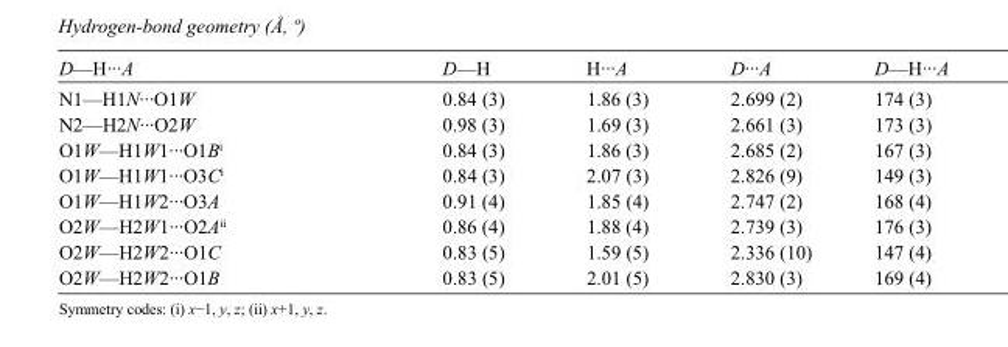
<table><tbody><tr><td>D—H···A</td><td>D—H</td><td>H···A</td><td>D···A</td><td>D—H···A</td></tr><tr><td>N1—H1N···O1W</td><td>0.84 (3)</td><td>1.86 (3)</td><td>2.699 (2)</td><td>174 (3)</td></tr><tr><td>N2—H2N···O2W</td><td>0.98 (3)</td><td>1.69 (3)</td><td>2.661 (3)</td><td>173 (3)</td></tr><tr><td>O1W—H1W1···O1B<sup>i</sup></td><td>0.84 (3)</td><td>1.86 (3)</td><td>2.685 (2)</td><td>167 (3)</td></tr><tr><td>O1W—H1W1···O3C<sup>i</sup></td><td>0.84 (3)</td><td>2.07 (3)</td><td>2.826 (9)</td><td>149 (3)</td></tr><tr><td>O1W—H1W2···O3A</td><td>0.91 (4)</td><td>1.85 (4)</td><td>2.747 (2)</td><td>168 (4)</td></tr><tr><td>O2W—H2W1···O2A<sup>ii</sup></td><td>0.86 (4)</td><td>1.88 (4)</td><td>2.739 (3)</td><td>176 (3)</td></tr><tr><td>O2W—H2W2···O1C</td><td>0.83 (5)</td><td>1.59 (5)</td><td>2.336 (10)</td><td>147 (4)</td></tr><tr><td>O2W—H2W2···O1B</td><td>0.83 (5)</td><td>2.01 (5)</td><td>2.830 (3)</td><td>169 (4)</td></tr></tbody></table>